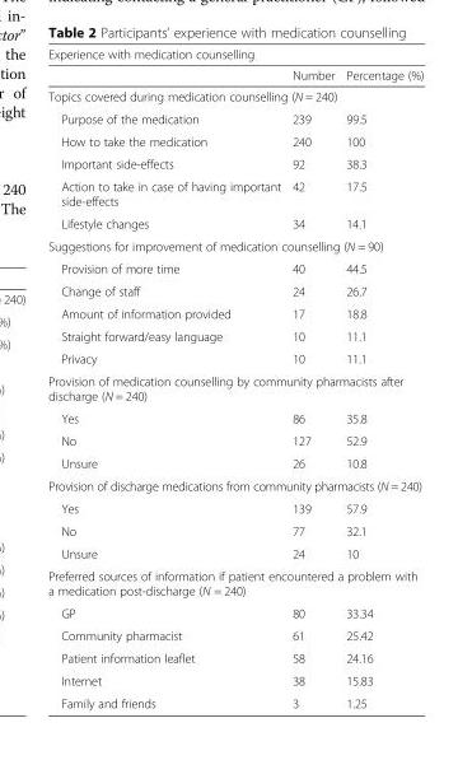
<table><thead><tr><td colspan="3">Experience with medication counselling</td></tr><tr><td></td><td>Number</td><td>Percentage (%)</td></tr></thead><tbody><tr><td colspan="3">Topics covered during medication counselling (N = 240)</td></tr><tr><td>Purpose of the medication</td><td>239</td><td>99.5</td></tr><tr><td>How to take the medication</td><td>240</td><td>100</td></tr><tr><td>Important side-effects</td><td>92</td><td>38.3</td></tr><tr><td>Action to take in case of having important side-effects</td><td>42</td><td>17.5</td></tr><tr><td>Lifestyle changes</td><td>34</td><td>14.1</td></tr><tr><td colspan="3">Suggestions for improvement of medication counselling (N = 90)</td></tr><tr><td>Provision of more time</td><td>40</td><td>44.5</td></tr><tr><td>Change of staff</td><td>24</td><td>26.7</td></tr><tr><td>Amount of information provided</td><td>17</td><td>18.8</td></tr><tr><td>Straight forward/easy language</td><td>10</td><td>11.1</td></tr><tr><td>Privacy</td><td>10</td><td>11.1</td></tr><tr><td colspan="3">Provision of medication counselling by community pharmacists after discharge (N = 240)</td></tr><tr><td>Yes</td><td>86</td><td>35.8</td></tr><tr><td>No</td><td>127</td><td>52.9</td></tr><tr><td>Unsure</td><td>26</td><td>10.8</td></tr><tr><td colspan="3">Provision of discharge medications from community pharmacists (N = 240)</td></tr><tr><td>Yes</td><td>139</td><td>57.9</td></tr><tr><td>No</td><td>77</td><td>32.1</td></tr><tr><td>Unsure</td><td>24</td><td>10</td></tr><tr><td colspan="3">Preferred sources of information if patient encountered a problem with a medication post-discharge (N = 240)</td></tr><tr><td>GP</td><td>80</td><td>33.34</td></tr><tr><td>Community pharmacist</td><td>61</td><td>25.42</td></tr><tr><td>Patient information leaflet</td><td>58</td><td>24.16</td></tr><tr><td>Internet</td><td>38</td><td>15.83</td></tr><tr><td>Family and friends</td><td>3</td><td>1.25</td></tr></tbody></table>